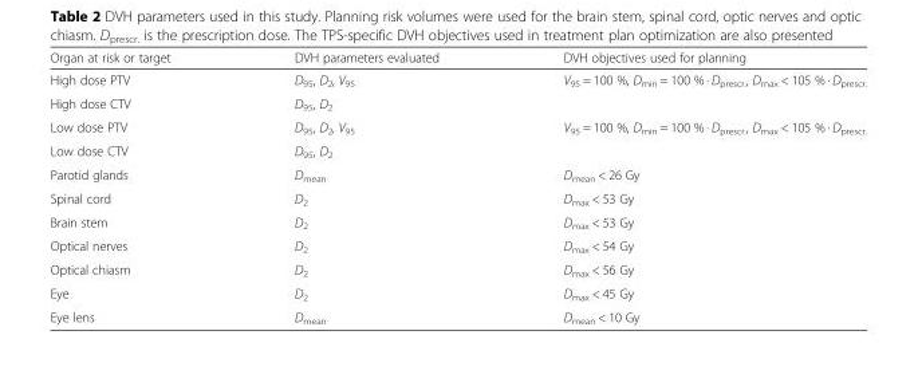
<table><thead><tr><td>Organ at risk or target</td><td>DVH parameters evaluated</td><td>DVH objectives used for planning</td></tr></thead><tbody><tr><td>High dose PTV</td><td>D<sub>95</sub>, D<sub>2</sub>, V<sub>95</sub></td><td>V<sub>95</sub> = 100 %, D<sub>min</sub> = 100 % · D<sub>prescr.</sub>, D<sub>max</sub> &lt; 105 % · D<sub>prescr.</sub></td></tr><tr><td>High dose CTV</td><td>D<sub>95</sub>, D<sub>2</sub></td><td></td></tr><tr><td>Low dose PTV</td><td>D<sub>95</sub>, D<sub>2</sub>, V<sub>95</sub></td><td>V<sub>95</sub> = 100 %, D<sub>min</sub> = 100 % · D<sub>prescr.</sub>, D<sub>max</sub> &lt; 105 % · D<sub>prescr.</sub></td></tr><tr><td>Low dose CTV</td><td>D<sub>95</sub>, D<sub>2</sub></td><td></td></tr><tr><td>Parotid glands</td><td>D<sub>mean</sub></td><td>D<sub>mean</sub> &lt; 26 Gy</td></tr><tr><td>Spinal cord</td><td>D<sub>2</sub></td><td>D<sub>max</sub> &lt; 53 Gy</td></tr><tr><td>Brain stem</td><td>D<sub>2</sub></td><td>D<sub>max</sub> &lt; 53 Gy</td></tr><tr><td>Optical nerves</td><td>D<sub>2</sub></td><td>D<sub>max</sub> &lt; 54 Gy</td></tr><tr><td>Optical chiasm</td><td>D<sub>2</sub></td><td>D<sub>max</sub> &lt; 56 Gy</td></tr><tr><td>Eye</td><td>D<sub>2</sub></td><td>D<sub>max</sub> &lt; 45 Gy</td></tr><tr><td>Eye lens</td><td>D<sub>mean</sub></td><td>D<sub>mean</sub> &lt; 10 Gy</td></tr></tbody></table>